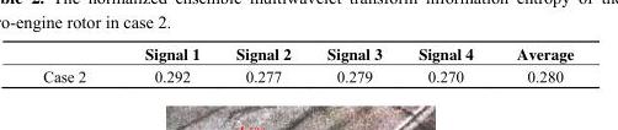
<table><thead><tr><td></td><td>Signal 1</td><td>Signal 2</td><td>Signal 3</td><td>Signal 4</td><td>Average</td></tr></thead><tbody><tr><td>Case 2</td><td>0.292</td><td>0.277</td><td>0.279</td><td>0.270</td><td>0.280</td></tr></tbody></table>